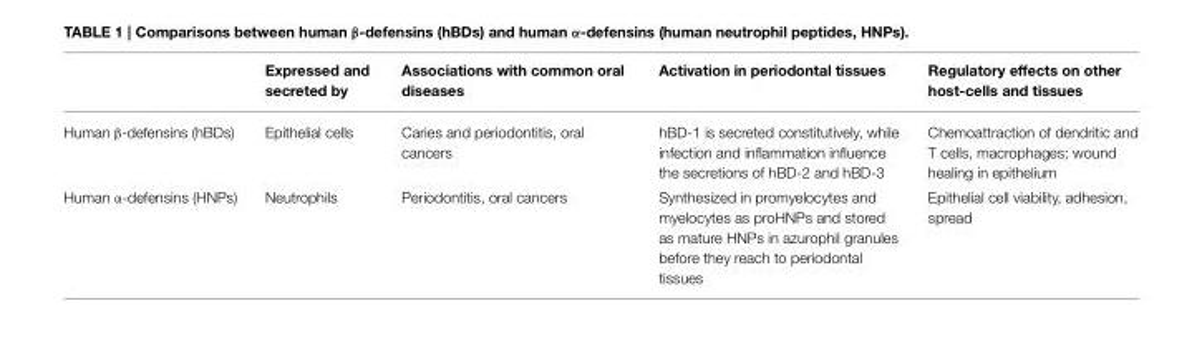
<table><thead><tr><td></td><td>Expressed and secreted by</td><td>Associations with common oral diseases</td><td>Activation in periodontal tissues</td><td>Regulatory effects on other host-cells and tissues</td></tr></thead><tbody><tr><td>Human β-defensins (hBDs)</td><td>Epithelial cells</td><td>Caries and periodontitis, oral cancers</td><td>hBD-1 is secreted constitutively, while infection and inflammation influence the secretions of hBD-2 and hBD-3</td><td>Chemoattraction of dendritic and T cells, macrophages; wound healing in epithelium</td></tr><tr><td>Human α-defensins (HNPs)</td><td>Neutrophils</td><td>Periodontitis, oral cancers</td><td>Synthesized in promyelocytes and myelocytes as proHNPs and stored as mature HNPs in azurophil granules before they reach to periodontal tissues</td><td>Epithelial cell viability, adhesion, spread</td></tr></tbody></table>